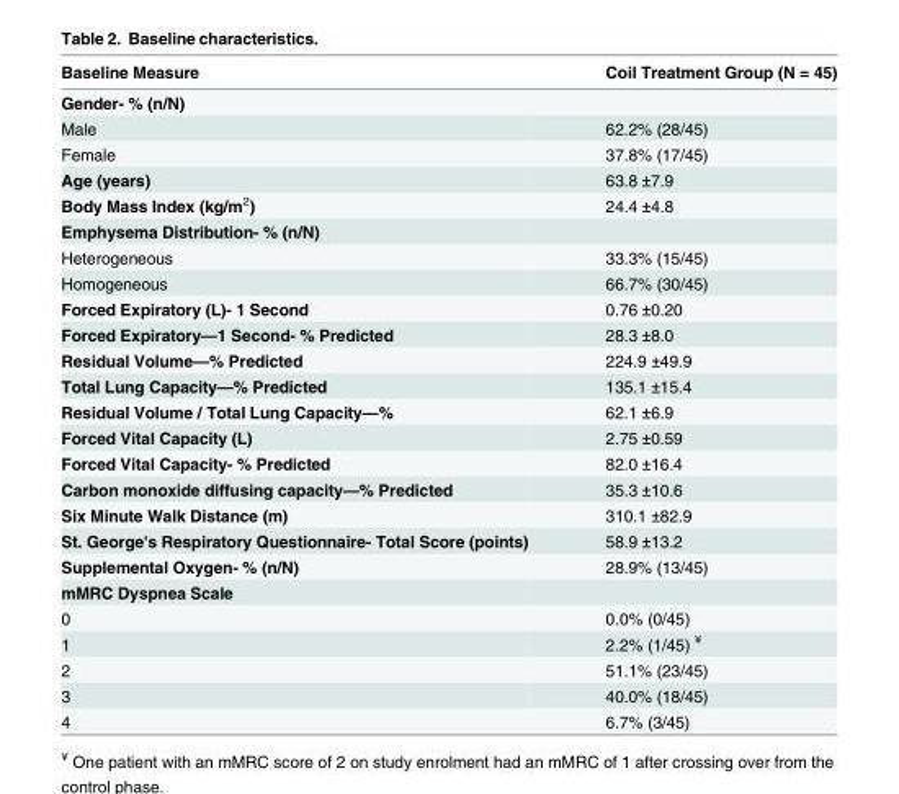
<table><thead><tr><td>Baseline Measure</td><td>Coil Treatment Group (N = 45)</td></tr></thead><tbody><tr><td colspan="2">Gender- % (n/N)</td></tr><tr><td>Male</td><td>62.2% (28/45)</td></tr><tr><td>Female</td><td>37.8% (17/45)</td></tr><tr><td>Age (years)</td><td>63.8 ±7.9</td></tr><tr><td>Body Mass Index (kg/m<sup>2</sup>)</td><td>24.4 ±4.8</td></tr><tr><td colspan="2">Emphysema Distribution- % (n/N)</td></tr><tr><td>Heterogeneous</td><td>33.3% (15/45)</td></tr><tr><td>Homogeneous</td><td>66.7% (30/45)</td></tr><tr><td>Forced Expiratory (L)- 1 Second</td><td>0.76 ±0.20</td></tr><tr><td>Forced Expiratory—1 Second- % Predicted</td><td>28.3 ±8.0</td></tr><tr><td>Residual Volume—% Predicted</td><td>224.9 ±49.9</td></tr><tr><td>Total Lung Capacity—% Predicted</td><td>135.1 ±15.4</td></tr><tr><td>Residual Volume / Total Lung Capacity—%</td><td>62.1 ±6.9</td></tr><tr><td>Forced Vital Capacity (L)</td><td>2.75 ±0.59</td></tr><tr><td>Forced Vital Capacity- % Predicted</td><td>82.0 ±16.4</td></tr><tr><td>Carbon monoxide diffusing capacity—% Predicted</td><td>35.3 ±10.6</td></tr><tr><td>Six Minute Walk Distance (m)</td><td>310.1 ±82.9</td></tr><tr><td>St. George&#x27;s Respiratory Questionnaire- Total Score (points)</td><td>58.9 ±13.2</td></tr><tr><td>Supplemental Oxygen- % (n/N)</td><td>28.9% (13/45)</td></tr><tr><td colspan="2">mMRC Dyspnea Scale</td></tr><tr><td>0</td><td>0.0% (0/45)</td></tr><tr><td>1</td><td>2.2% (1/45) <sup>¥</sup></td></tr><tr><td>2</td><td>51.1% (23/45)</td></tr><tr><td>3</td><td>40.0% (18/45)</td></tr><tr><td>4</td><td>6.7% (3/45)</td></tr></tbody></table>